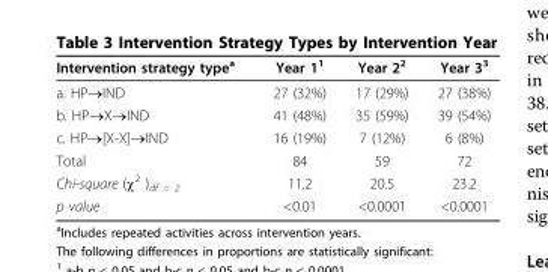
<table><thead><tr><td>Intervention strategy type<sup>a</sup></td><td>Year 1<sup>1</sup></td><td>Year 2<sup>2</sup></td><td>Year 3<sup>3</sup></td></tr></thead><tbody><tr><td>a. HP→IND</td><td>27 (32%)</td><td>17 (29%)</td><td>27 (38%)</td></tr><tr><td>b. HP→X→IND</td><td>41 (48%)</td><td>35 (59%)</td><td>39 (54%)</td></tr><tr><td>c. HP→[X-X]→IND</td><td>16 (19%)</td><td>7 (12%)</td><td>6 (8%)</td></tr><tr><td>Total</td><td>84</td><td>59</td><td>72</td></tr><tr><td>Chi-square (χ<sup>2</sup> )<sub>df = 2</sub></td><td>11.2</td><td>20.5</td><td>23.2</td></tr><tr><td>p value</td><td>&lt;0.01</td><td>&lt;0.0001</td><td>&lt;0.0001</td></tr></tbody></table>